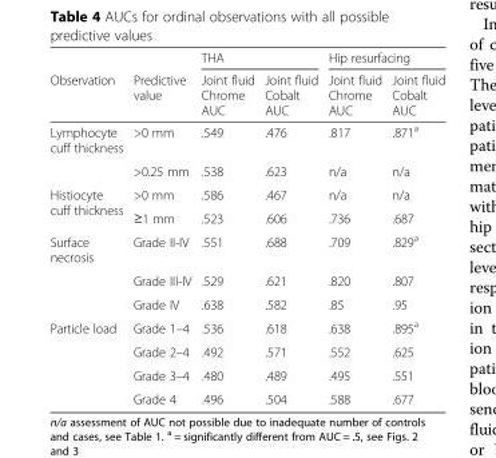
<table><thead><tr><td rowspan="2">Observation</td><td rowspan="2">Predictive value</td><td colspan="2">THA</td><td colspan="2">Hip resurfacing</td></tr><tr><td>Joint fluid Chrome AUC</td><td>Joint fluid Cobalt AUC</td><td>Joint fluid Chrome AUC</td><td>Joint fluid Cobalt AUC</td></tr></thead><tbody><tr><td rowspan="2">Lymphocyte cuff thickness</td><td>&gt;0 mm</td><td>.549</td><td>.476</td><td>.817</td><td>.871<sup>a</sup></td></tr><tr><td>&gt;0.25 mm</td><td>.538</td><td>.623</td><td>n/a</td><td>n/a</td></tr><tr><td rowspan="2">Histiocyte cuff thickness</td><td>&gt;0 mm</td><td>.586</td><td>.467</td><td>n/a</td><td>n/a</td></tr><tr><td>≥1 mm</td><td>.523</td><td>.606</td><td>.736</td><td>.687</td></tr><tr><td rowspan="3">Surface necrosis</td><td>Grade II-IV</td><td>.551</td><td>.688</td><td>.709</td><td>.829<sup>a</sup></td></tr><tr><td>Grade III-IV</td><td>.529</td><td>.621</td><td>.820</td><td>.807</td></tr><tr><td>Grade IV</td><td>.638</td><td>.582</td><td>.85</td><td>.95</td></tr><tr><td rowspan="4">Particle load</td><td>Grade 1–4</td><td>.536</td><td>.618</td><td>.638</td><td>.895<sup>a</sup></td></tr><tr><td>Grade 2–4</td><td>.492</td><td>.571</td><td>.552</td><td>.625</td></tr><tr><td>Grade 3–4</td><td>.480</td><td>.489</td><td>.495</td><td>.551</td></tr><tr><td>Grade 4</td><td>.496</td><td>.504</td><td>.588</td><td>.677</td></tr></tbody></table>